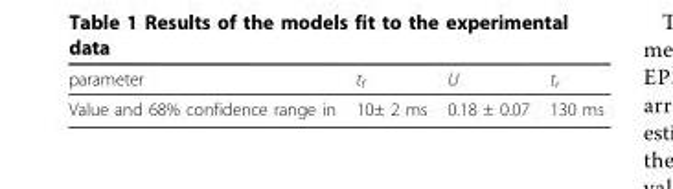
<table><thead><tr><td>parameter</td><td>t<sub>f</sub></td><td>U</td><td>t<sub>r</sub></td></tr></thead><tbody><tr><td>Value and 68% confidence range in</td><td>10± 2 ms</td><td>0.18 ± 0.07</td><td>130 ms</td></tr></tbody></table>